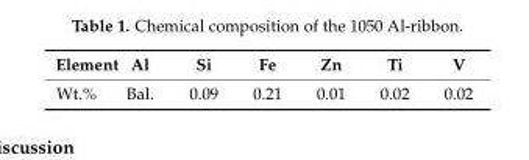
<table><thead><tr><td>Element</td><td>Al</td><td>Si</td><td>Fe</td><td>Zn</td><td>Ti</td><td>V</td></tr></thead><tbody><tr><td>Wt.%</td><td>Bal.</td><td>0.09</td><td>0.21</td><td>0.01</td><td>0.02</td><td>0.02</td></tr></tbody></table>